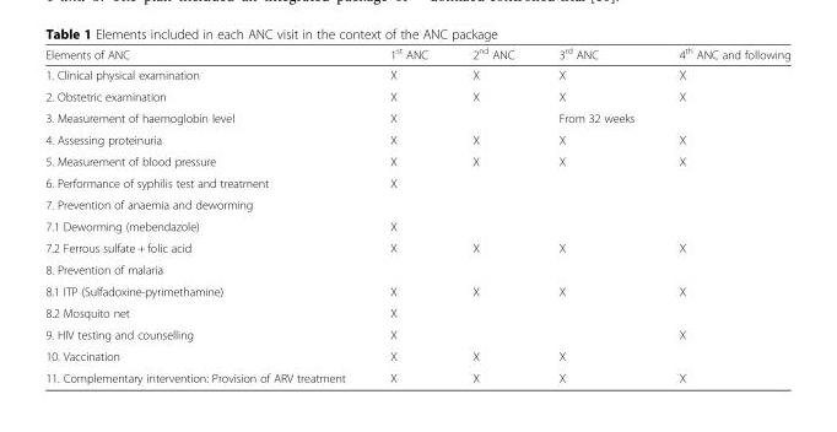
<table><thead><tr><td>Elements of ANC</td><td>1<sup>st</sup> ANC</td><td>2<sup>nd</sup> ANC</td><td>3<sup>rd</sup> ANC</td><td>4<sup>th</sup> ANC and following</td></tr></thead><tbody><tr><td>1. Clinical physical examination</td><td>X</td><td>X</td><td>X</td><td>X</td></tr><tr><td>2. Obstetric examination</td><td>X</td><td>X</td><td>X</td><td>X</td></tr><tr><td>3. Measurement of haemoglobin level</td><td>X</td><td></td><td>From 32 weeks</td><td></td></tr><tr><td>4. Assessing proteinuria</td><td>X</td><td>X</td><td>X</td><td>X</td></tr><tr><td>5. Measurement of blood pressure</td><td>X</td><td>X</td><td>X</td><td>X</td></tr><tr><td>6. Performance of syphilis test and treatment</td><td>X</td><td></td><td></td><td></td></tr><tr><td colspan="5">7. Prevention of anaemia and deworming</td></tr><tr><td>7.1 Deworming (mebendazole)</td><td>X</td><td></td><td></td><td></td></tr><tr><td>7.2 Ferrous sulfate + folic acid</td><td>X</td><td>X</td><td>X</td><td>X</td></tr><tr><td colspan="5">8. Prevention of malaria</td></tr><tr><td>8.1 ITP (Sulfadoxine-pyrimethamine)</td><td>X</td><td>X</td><td>X</td><td>X</td></tr><tr><td>8.2 Mosquito net</td><td>X</td><td></td><td></td><td></td></tr><tr><td>9. HIV testing and counselling</td><td>X</td><td></td><td></td><td>X</td></tr><tr><td>10. Vaccination</td><td>X</td><td>X</td><td>X</td><td></td></tr><tr><td>11. Complementary intervention: Provision of ARV treatment</td><td>X</td><td>X</td><td>X</td><td>X</td></tr></tbody></table>